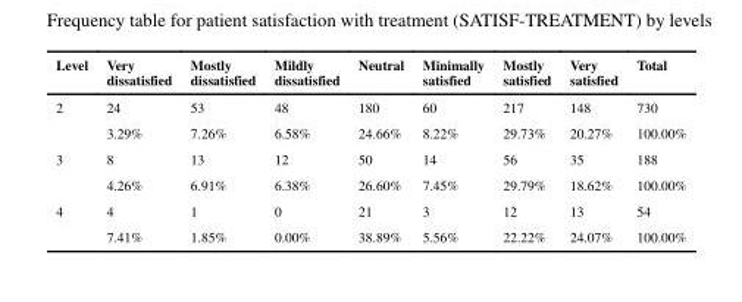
<table><thead><tr><td>Level</td><td>Very dissatisfied</td><td>Mostly dissatisfied</td><td>Mildly dissatisfied</td><td>Neutral</td><td>Minimally satisfied</td><td>Mostly satisfied</td><td>Very satisfied</td><td>Total</td></tr></thead><tbody><tr><td rowspan="2">2</td><td>24</td><td>53</td><td>48</td><td>180</td><td>60</td><td>217</td><td>148</td><td>730</td></tr><tr><td>3.29%</td><td>7.26%</td><td>6.58%</td><td>24.66%</td><td>8.22%</td><td>29.73%</td><td>20.27%</td><td>100.00%</td></tr><tr><td rowspan="2">3</td><td>8</td><td>13</td><td>12</td><td>50</td><td>14</td><td>56</td><td>35</td><td>188</td></tr><tr><td>4.26%</td><td>6.91%</td><td>6.38%</td><td>26.60%</td><td>7.45%</td><td>29.79%</td><td>18.62%</td><td>100.00%</td></tr><tr><td rowspan="2">4</td><td>4</td><td>1</td><td>0</td><td>21</td><td>3</td><td>12</td><td>13</td><td>54</td></tr><tr><td>7.41%</td><td>1.85%</td><td>0.00%</td><td>38.89%</td><td>5.56%</td><td>22.22%</td><td>24.07%</td><td>100.00%</td></tr></tbody></table>